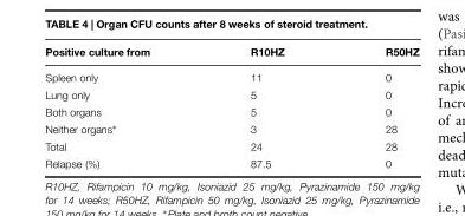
<table><thead><tr><td>Positive culture from</td><td>R10HZ</td><td>R50HZ</td></tr></thead><tbody><tr><td>Spleen only</td><td>11</td><td>0</td></tr><tr><td>Lung only</td><td>5</td><td>0</td></tr><tr><td>Both organs</td><td>5</td><td>0</td></tr><tr><td>Neither organs∗</td><td>3</td><td>28</td></tr><tr><td>Total</td><td>24</td><td>28</td></tr><tr><td>Relapse (%)</td><td>87.5</td><td>0</td></tr></tbody></table>